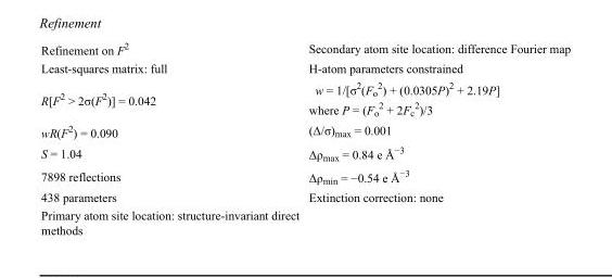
<table><tbody><tr><td>Refinement on F<sup>2</sup></td><td>Secondary atom site location: difference Fourier map</td></tr><tr><td>Least-squares matrix: full</td><td>H-atom parameters constrained</td></tr><tr><td>R[F<sup>2</sup> &gt; 2σ(F<sup>2</sup>)] = 0.042</td><td>w = 1/[σ<sup>2</sup>(F<sub>o</sub> <sup>2</sup>) + (0.0305P)<sup>2</sup> + 2.19P] where P = (F<sub>o</sub> <sup>2</sup> + 2F<sub>c</sub> <sup>2</sup>)/3</td></tr><tr><td>wR(F<sup>2</sup>) = 0.090</td><td>(Δ/σ)<sub>max</sub> = 0.001</td></tr><tr><td>S = 1.04</td><td>Δρ<sub>max</sub> = 0.84 e Å<sup>−3</sup></td></tr><tr><td>7898 reflections</td><td>Δρ<sub>min</sub> = −0.54 e Å<sup>−3</sup></td></tr><tr><td>438 parameters</td><td>Extinction correction: none</td></tr><tr><td>Primary atom site location: structure-invariant direct methods</td><td></td></tr></tbody></table>